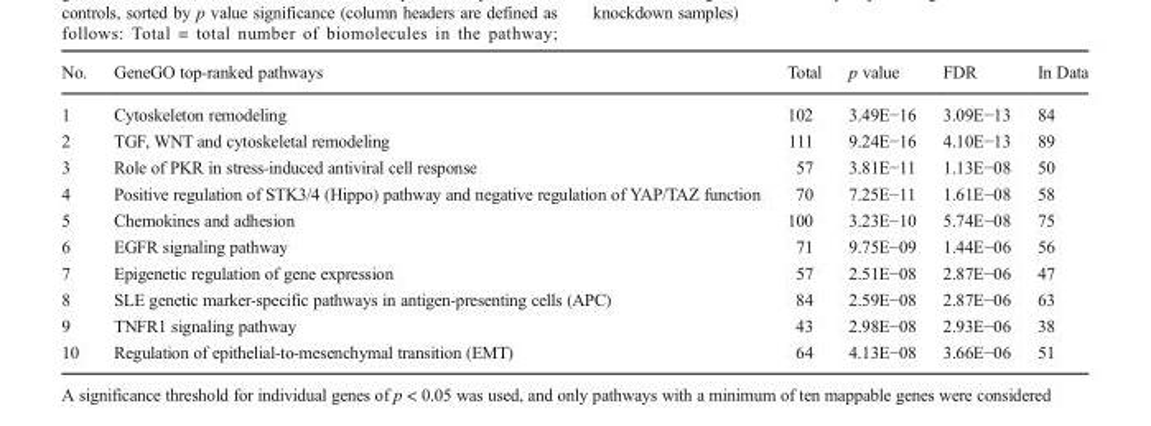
<table><thead><tr><td>No.</td><td>GeneGO top-ranked pathways</td><td>Total</td><td>p value</td><td>FDR</td><td>In Data</td></tr></thead><tbody><tr><td>1</td><td>Cytoskeleton remodeling</td><td>102</td><td>3.49E−16</td><td>3.09E−13</td><td>84</td></tr><tr><td>2</td><td>TGF, WNT and cytoskeletal remodeling</td><td>111</td><td>9.24E−16</td><td>4.10E−13</td><td>89</td></tr><tr><td>3</td><td>Role of PKR in stress-induced antiviral cell response</td><td>57</td><td>3.81E−11</td><td>1.13E−08</td><td>50</td></tr><tr><td>4</td><td>Positive regulation of STK3/4 (Hippo) pathway and negative regulation of YAP/TAZ function</td><td>70</td><td>7.25E−11</td><td>1.61E−08</td><td>58</td></tr><tr><td>5</td><td>Chemokines and adhesion</td><td>100</td><td>3.23E−10</td><td>5.74E−08</td><td>75</td></tr><tr><td>6</td><td>EGFR signaling pathway</td><td>71</td><td>9.75E−09</td><td>1.44E−06</td><td>56</td></tr><tr><td>7</td><td>Epigenetic regulation of gene expression</td><td>57</td><td>2.51E−08</td><td>2.87E−06</td><td>47</td></tr><tr><td>8</td><td>SLE genetic marker-specific pathways in antigen-presenting cells (APC)</td><td>84</td><td>2.59E−08</td><td>2.87E−06</td><td>63</td></tr><tr><td>9</td><td>TNFR1 signaling pathway</td><td>43</td><td>2.98E−08</td><td>2.93E−06</td><td>38</td></tr><tr><td>10</td><td>Regulation of epithelial-to-mesenchymal transition (EMT)</td><td>64</td><td>4.13E−08</td><td>3.66E−06</td><td>51</td></tr></tbody></table>